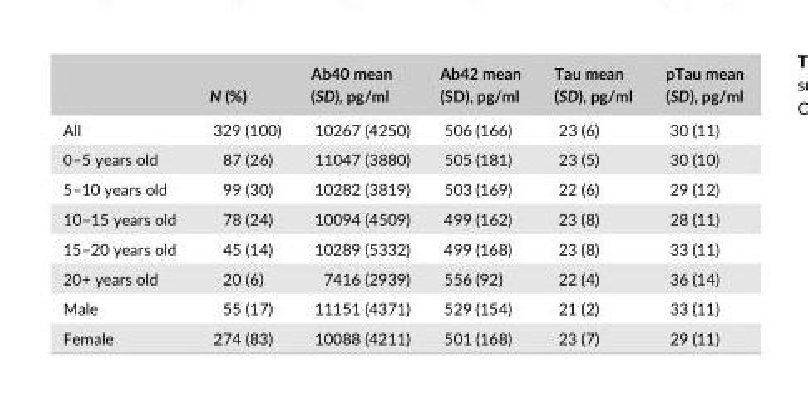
<table><thead><tr><td></td><td>N (%)</td><td>Ab40 mean (SD), pg/ml</td><td>Ab42 mean (SD), pg/ml</td><td>Tau mean (SD), pg/ml</td><td>pTau mean (SD), pg/ml</td></tr></thead><tbody><tr><td>All</td><td>329 (100)</td><td>10267 (4250)</td><td>506 (166)</td><td>23 (6)</td><td>30 (11)</td></tr><tr><td>0–5 years old</td><td>87 (26)</td><td>11047 (3880)</td><td>505 (181)</td><td>23 (5)</td><td>30 (10)</td></tr><tr><td>5–10 years old</td><td>99 (30)</td><td>10282 (3819)</td><td>503 (169)</td><td>22 (6)</td><td>29 (12)</td></tr><tr><td>10–15 years old</td><td>78 (24)</td><td>10094 (4509)</td><td>499 (162)</td><td>23 (8)</td><td>28 (11)</td></tr><tr><td>15–20 years old</td><td>45 (14)</td><td>10289 (5332)</td><td>499 (168)</td><td>23 (8)</td><td>33 (11)</td></tr><tr><td>20+ years old</td><td>20 (6)</td><td>7416 (2939)</td><td>556 (92)</td><td>22 (4)</td><td>36 (14)</td></tr><tr><td>Male</td><td>55 (17)</td><td>11151 (4371)</td><td>529 (154)</td><td>21 (2)</td><td>33 (11)</td></tr><tr><td>Female</td><td>274 (83)</td><td>10088 (4211)</td><td>501 (168)</td><td>23 (7)</td><td>29 (11)</td></tr></tbody></table>